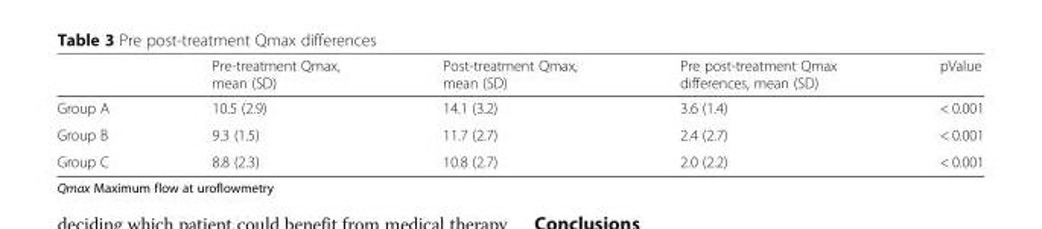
<table><thead><tr><td></td><td>Pre-treatment Qmax, mean (SD)</td><td>Post-treatment Qmax, mean (SD)</td><td>Pre post-treatment Qmax differences, mean (SD)</td><td>pValue</td></tr></thead><tbody><tr><td>Group A</td><td>10.5 (2.9)</td><td>14.1 (3.2)</td><td>3.6 (1.4)</td><td>&lt; 0.001</td></tr><tr><td>Group B</td><td>9.3 (1.5)</td><td>11.7 (2.7)</td><td>2.4 (2.7)</td><td>&lt; 0.001</td></tr><tr><td>Group C</td><td>8.8 (2.3)</td><td>10.8 (2.7)</td><td>2.0 (2.2)</td><td>&lt; 0.001</td></tr></tbody></table>